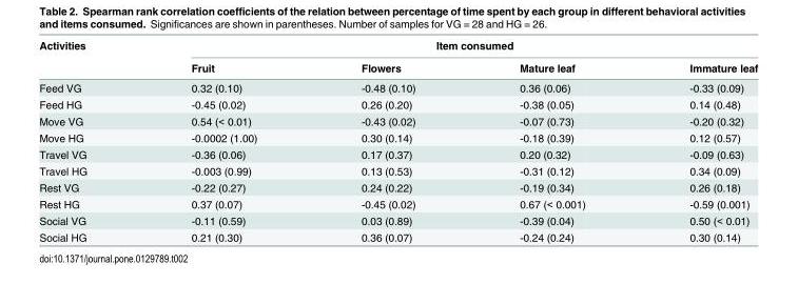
<table><thead><tr><td rowspan="2">Activities</td><td colspan="4">Item consumed</td></tr><tr><td>Fruit</td><td>Flowers</td><td>Mature leaf</td><td>Immature leaf</td></tr></thead><tbody><tr><td>Feed VG</td><td>0.32 (0.10)</td><td>-0.48 (0.10)</td><td>0.36 (0.06)</td><td>-0.33 (0.09)</td></tr><tr><td>Feed HG</td><td>-0.45 (0.02)</td><td>0.26 (0.20)</td><td>-0.38 (0.05)</td><td>0.14 (0.48)</td></tr><tr><td>Move VG</td><td>0.54 (&lt; 0.01)</td><td>-0.43 (0.02)</td><td>-0.07 (0.73)</td><td>-0.20 (0.32)</td></tr><tr><td>Move HG</td><td>-0.0002 (1.00)</td><td>0.30 (0.14)</td><td>-0.18 (0.39)</td><td>0.12 (0.57)</td></tr><tr><td>Travel VG</td><td>-0.36 (0.06)</td><td>0.17 (0.37)</td><td>0.20 (0.32)</td><td>-0.09 (0.63)</td></tr><tr><td>Travel HG</td><td>-0.003 (0.99)</td><td>0.13 (0.53)</td><td>-0.31 (0.12)</td><td>0.34 (0.09)</td></tr><tr><td>Rest VG</td><td>-0.22 (0.27)</td><td>0.24 (0.22)</td><td>-0.19 (0.34)</td><td>0.26 (0.18)</td></tr><tr><td>Rest HG</td><td>0.37 (0.07)</td><td>-0.45 (0.02)</td><td>0.67 (&lt; 0.001)</td><td>-0.59 (0.001)</td></tr><tr><td>Social VG</td><td>-0.11 (0.59)</td><td>0.03 (0.89)</td><td>-0.39 (0.04)</td><td>0.50 (&lt; 0.01)</td></tr><tr><td>Social HG</td><td>0.21 (0.30)</td><td>0.36 (0.07)</td><td>-0.24 (0.24)</td><td>0.30 (0.14)</td></tr></tbody></table>